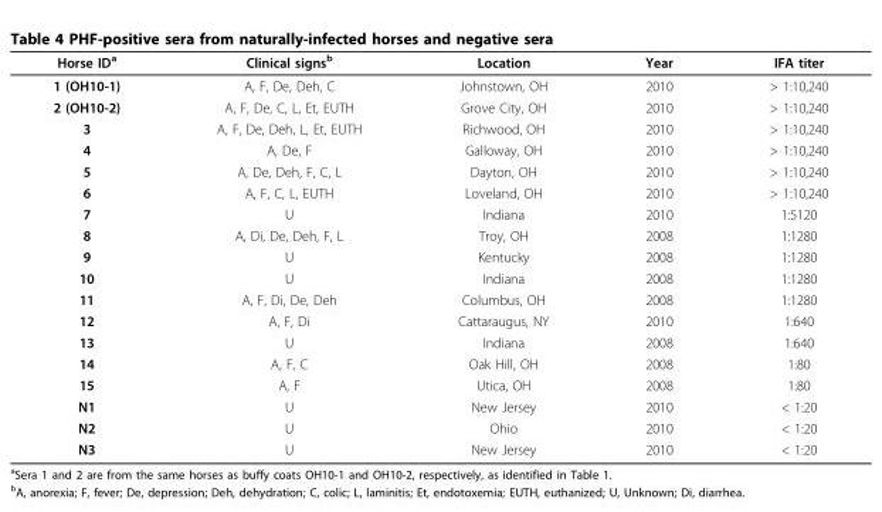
<table><thead><tr><td>Horse ID<sup>a</sup></td><td>Clinical signs<sup>b</sup></td><td>Location</td><td>Year</td><td>IFA titer</td></tr></thead><tbody><tr><td>1 (OH10-1)</td><td>A, F, De, Deh, C</td><td>Johnstown, OH</td><td>2010</td><td>&gt; 1:10,240</td></tr><tr><td>2 (OH10-2)</td><td>A, F, De, C, L, Et, EUTH</td><td>Grove City, OH</td><td>2010</td><td>&gt; 1:10,240</td></tr><tr><td>3</td><td>A, F, De, Deh, L, Et, EUTH</td><td>Richwood, OH</td><td>2010</td><td>&gt; 1:10,240</td></tr><tr><td>4</td><td>A, De, F</td><td>Galloway, OH</td><td>2010</td><td>&gt; 1:10,240</td></tr><tr><td>5</td><td>A, De, Deh, F, C, L</td><td>Dayton, OH</td><td>2010</td><td>&gt; 1:10,240</td></tr><tr><td>6</td><td>A, F, C, L, EUTH</td><td>Loveland, OH</td><td>2010</td><td>&gt; 1:10,240</td></tr><tr><td>7</td><td>U</td><td>Indiana</td><td>2010</td><td>1:5120</td></tr><tr><td>8</td><td>A, Di, De, Deh, F, L</td><td>Troy, OH</td><td>2008</td><td>1:1280</td></tr><tr><td>9</td><td>U</td><td>Kentucky</td><td>2008</td><td>1:1280</td></tr><tr><td>10</td><td>U</td><td>Indiana</td><td>2008</td><td>1:1280</td></tr><tr><td>11</td><td>A, F, Di, De, Deh</td><td>Columbus, OH</td><td>2008</td><td>1:1280</td></tr><tr><td>12</td><td>A, F, Di</td><td>Cattaraugus, NY</td><td>2010</td><td>1:640</td></tr><tr><td>13</td><td>U</td><td>Indiana</td><td>2008</td><td>1:640</td></tr><tr><td>14</td><td>A, F, C</td><td>Oak Hill, OH</td><td>2008</td><td>1:80</td></tr><tr><td>15</td><td>A, F</td><td>Utica, OH</td><td>2008</td><td>1:80</td></tr><tr><td>N1</td><td>U</td><td>New Jersey</td><td>2010</td><td>&lt; 1:20</td></tr><tr><td>N2</td><td>U</td><td>Ohio</td><td>2010</td><td>&lt; 1:20</td></tr><tr><td>N3</td><td>U</td><td>New Jersey</td><td>2010</td><td>&lt; 1:20</td></tr></tbody></table>